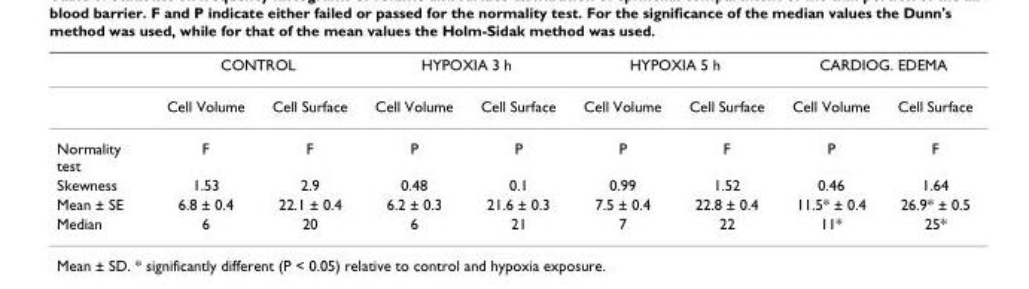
<table><thead><tr><td rowspan="2"></td><td colspan="2">CONTROL</td><td colspan="2">HYPOXIA 3 h</td><td colspan="2">HYPOXIA 5 h</td><td colspan="2">CARDIOG. EDEMA</td></tr><tr><td>Cell Volume</td><td>Cell Surface</td><td>Cell Volume</td><td>Cell Surface</td><td>Cell Volume</td><td>Cell Surface</td><td>Cell Volume</td><td>Cell Surface</td></tr></thead><tbody><tr><td>Normality test</td><td>F</td><td>F</td><td>P</td><td>P</td><td>P</td><td>F</td><td>P</td><td>F</td></tr><tr><td>Skewness</td><td>1.53</td><td>2.9</td><td>0.48</td><td>0.1</td><td>0.99</td><td>1.52</td><td>0.46</td><td>1.64</td></tr><tr><td>Mean ± SE</td><td>6.8 ± 0.4</td><td>22.1 ± 0.4</td><td>6.2 ± 0.3</td><td>21.6 ± 0.3</td><td>7.5 ± 0.4</td><td>22.8 ± 0.4</td><td>11.5* ± 0.4</td><td>26.9* ± 0.5</td></tr><tr><td>Median</td><td>6</td><td>20</td><td>6</td><td>21</td><td>7</td><td>22</td><td>11*</td><td>25*</td></tr></tbody></table>